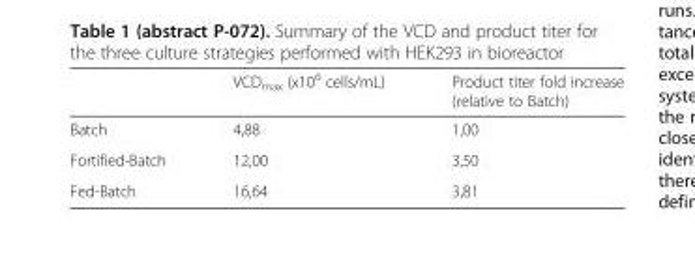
<table><thead><tr><td></td><td>VCD<sub>max</sub> (x10<sup>6</sup> cells/mL)</td><td>Product titer fold increase (relative to Batch)</td></tr></thead><tbody><tr><td>Batch</td><td>4,88</td><td>1,00</td></tr><tr><td>Fortified-Batch</td><td>12,00</td><td>3,50</td></tr><tr><td>Fed-Batch</td><td>16,64</td><td>3,81</td></tr></tbody></table>